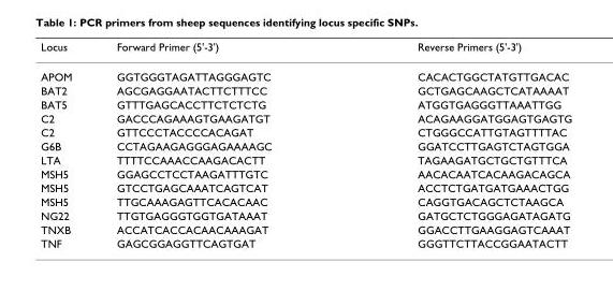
<table><thead><tr><td>Locus</td><td>Forward Primer (5&#x27;-3&#x27;)</td><td>Reverse Primers (5&#x27;-3&#x27;)</td></tr></thead><tbody><tr><td>APOM</td><td>GGTGGGTAGATTAGGGAGTC</td><td>CACACTGGCTATGTTGACAC</td></tr><tr><td>BAT2</td><td>AGCGAGGAATACTTCTTTCC</td><td>GCTGAGCAAGCTCATAAAAT</td></tr><tr><td>BAT5</td><td>GTTTGAGCACCTTCTCTCTG</td><td>ATGGTGAGGGTTAAATTGG</td></tr><tr><td>C2</td><td>GACCCAGAAAGTGAAGATGT</td><td>ACAGAAGGATGGAGTGAGTG</td></tr><tr><td>C2</td><td>GTTCCCTACCCCACAGAT</td><td>CTGGGCCATTGTAGTTTTAC</td></tr><tr><td>G6B</td><td>CCTAGAAGAGGGAGAAAAGC</td><td>GGATCCTTGAGTCTAGTGGA</td></tr><tr><td>LTA</td><td>TTTTCCAAACCAAGACACTT</td><td>TAGAAGATGCTGCTGTTTCA</td></tr><tr><td>MSH5</td><td>GGAGCCTCCTAAGATTTGTC</td><td>AACACAATCACAAGACAGCA</td></tr><tr><td>MSH5</td><td>GTCCTGAGCAAATCAGTCAT</td><td>ACCTCTGATGATGAAACTGG</td></tr><tr><td>MSH5</td><td>TTGCAAAGAGTTCACACAAC</td><td>CAGGTGACAGCTCTAAGCA</td></tr><tr><td>NG22</td><td>TTGTGAGGGTGGTGATAAAT</td><td>GATGCTCTGGGAGATAGATG</td></tr><tr><td>TNXB</td><td>ACCATCACCACAACAAAGAT</td><td>GGACCTTGAAGGAGTCAAAT</td></tr><tr><td>TNF</td><td>GAGCGGAGGTTCAGTGAT</td><td>GGGTTCTTACCGGAATACTT</td></tr></tbody></table>